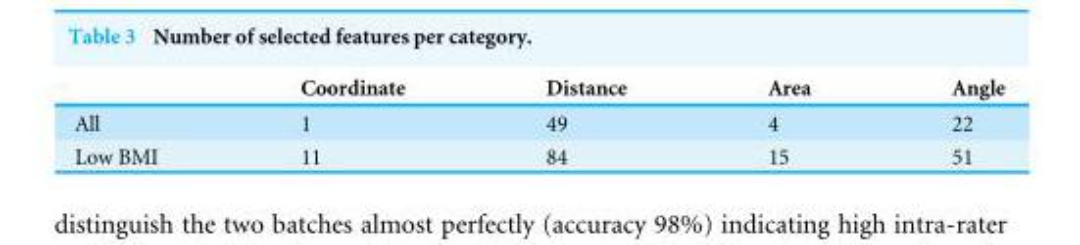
<table><thead><tr><td></td><td>Coordinate</td><td>Distance</td><td>Area</td><td>Angle</td></tr></thead><tbody><tr><td>All</td><td>1</td><td>49</td><td>4</td><td>22</td></tr><tr><td>Low BMI</td><td>11</td><td>84</td><td>15</td><td>51</td></tr></tbody></table>